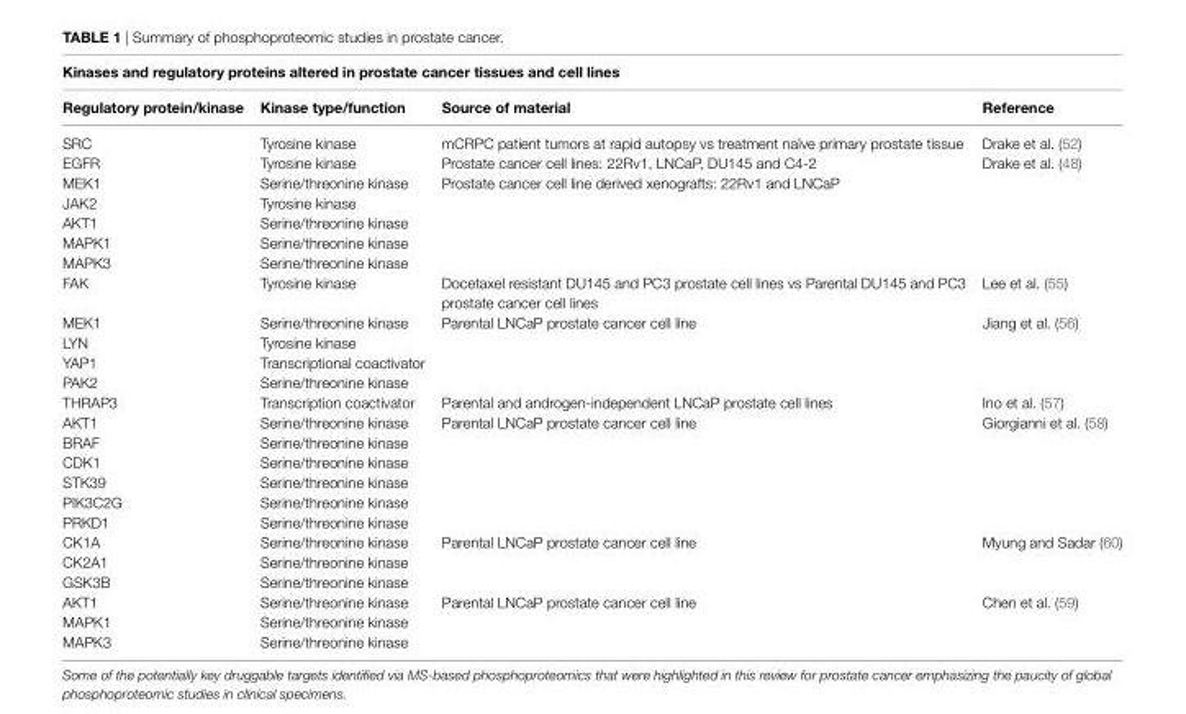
<table><thead><tr><td colspan="4">Kinases and regulatory proteins altered in prostate cancer tissues and cell lines</td></tr><tr><td>Regulatory protein/kinase</td><td>Kinase type/function</td><td>Source of material</td><td>Reference</td></tr></thead><tbody><tr><td>SRC</td><td>Tyrosine kinase</td><td>mCRPC patient tumors at rapid autopsy vs treatment naïve primary prostate tissue</td><td>Drake et al. (52)</td></tr><tr><td>EGFR</td><td>Tyrosine kinase</td><td>Prostate cancer cell lines: 22Rv1, LNCaP, DU145 and C4-2</td><td>Drake et al. (48)</td></tr><tr><td>MEK1</td><td>Serine/threonine kinase</td><td>Prostate cancer cell line derived xenografts: 22Rv1 and LNCaP</td><td></td></tr><tr><td>JAK2</td><td>Tyrosine kinase</td><td></td><td></td></tr><tr><td>AKT1</td><td>Serine/threonine kinase</td><td></td><td></td></tr><tr><td>MAPK1</td><td>Serine/threonine kinase</td><td></td><td></td></tr><tr><td>MAPK3</td><td>Serine/threonine kinase</td><td></td><td></td></tr><tr><td>FAK</td><td>Tyrosine kinase</td><td>Docetaxel resistant DU145 and PC3 prostate cell lines vs Parental DU145 and PC3 prostate cancer cell lines</td><td>Lee et al. (55)</td></tr><tr><td>MEK1</td><td>Serine/threonine kinase</td><td>Parental LNCaP prostate cancer cell line</td><td>Jiang et al. (56)</td></tr><tr><td>LYN</td><td>Tyrosine kinase</td><td></td><td></td></tr><tr><td>YAP1</td><td>Transcriptional coactivator</td><td></td><td></td></tr><tr><td>PAK2</td><td>Serine/threonine kinase</td><td></td><td></td></tr><tr><td>THRAP3</td><td>Transcription coactivator</td><td>Parental and androgen-independent LNCaP prostate cell lines</td><td>Ino et al. (57)</td></tr><tr><td>AKT1</td><td>Serine/threonine kinase</td><td>Parental LNCaP prostate cancer cell line</td><td>Giorgianni et al. (58)</td></tr><tr><td>BRAF</td><td>Serine/threonine kinase</td><td></td><td></td></tr><tr><td>CDK1</td><td>Serine/threonine kinase</td><td></td><td></td></tr><tr><td>STK39</td><td>Serine/threonine kinase</td><td></td><td></td></tr><tr><td>PIK3C2G</td><td>Serine/threonine kinase</td><td></td><td></td></tr><tr><td>PRKD1</td><td>Serine/threonine kinase</td><td></td><td></td></tr><tr><td>CK1A</td><td>Serine/threonine kinase</td><td>Parental LNCaP prostate cancer cell line</td><td>Myung and Sadar (60)</td></tr><tr><td>CK2A1</td><td>Serine/threonine kinase</td><td></td><td></td></tr><tr><td>GSK3B</td><td>Serine/threonine kinase</td><td></td><td></td></tr><tr><td>AKT1</td><td>Serine/threonine kinase</td><td>Parental LNCaP prostate cancer cell line</td><td>Chen et al. (59)</td></tr><tr><td>MAPK1</td><td>Serine/threonine kinase</td><td></td><td></td></tr><tr><td>MAPK3</td><td>Serine/threonine kinase</td><td></td><td></td></tr></tbody></table>